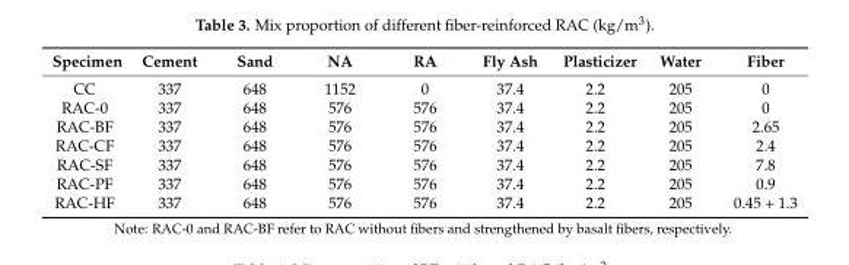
<table><thead><tr><td>Specimen</td><td>Cement</td><td>Sand</td><td>NA</td><td>RA</td><td>Fly Ash</td><td>Plasticizer</td><td>Water</td><td>Fiber</td></tr></thead><tbody><tr><td>CC</td><td>337</td><td>648</td><td>1152</td><td>0</td><td>37.4</td><td>2.2</td><td>205</td><td>0</td></tr><tr><td>RAC-0</td><td>337</td><td>648</td><td>576</td><td>576</td><td>37.4</td><td>2.2</td><td>205</td><td>0</td></tr><tr><td>RAC-BF</td><td>337</td><td>648</td><td>576</td><td>576</td><td>37.4</td><td>2.2</td><td>205</td><td>2.65</td></tr><tr><td>RAC-CF</td><td>337</td><td>648</td><td>576</td><td>576</td><td>37.4</td><td>2.2</td><td>205</td><td>2.4</td></tr><tr><td>RAC-SF</td><td>337</td><td>648</td><td>576</td><td>576</td><td>37.4</td><td>2.2</td><td>205</td><td>7.8</td></tr><tr><td>RAC-PF</td><td>337</td><td>648</td><td>576</td><td>576</td><td>37.4</td><td>2.2</td><td>205</td><td>0.9</td></tr><tr><td>RAC-HF</td><td>337</td><td>648</td><td>576</td><td>576</td><td>37.4</td><td>2.2</td><td>205</td><td>0.45 + 1.3</td></tr></tbody></table>